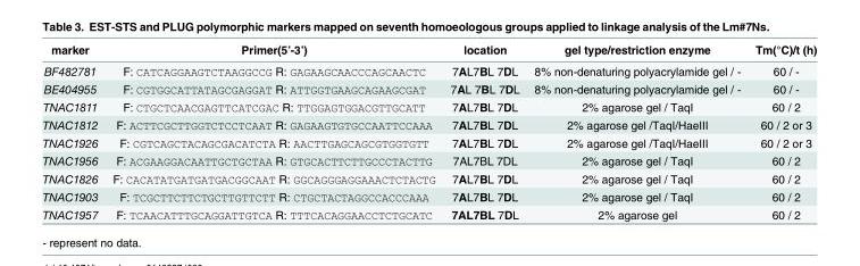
<table><thead><tr><td>marker</td><td>Primer(5’-3’)</td><td>location</td><td>gel type/restriction enzyme</td><td>Tm(°C)/t (h)</td></tr></thead><tbody><tr><td>BF482781</td><td>F: CATCAGGAAGTCTAAGGCCG R: GAGAAGCAACCCAGCAACTC</td><td>7AL7BL 7DL</td><td>8% non-denaturing polyacrylamide gel / -</td><td>60 / -</td></tr><tr><td>BE404955</td><td>F: CGTGGCATTATAGCGAGGAT R: ATTGGTGAAGCAGAAGCGAT</td><td>7AL 7BL 7DL</td><td>8% non-denaturing polyacrylamide gel / -</td><td>60 / -</td></tr><tr><td>TNAC1811</td><td>F: CTGCTCAACGAGTTCATCGAC R: TTGGAGTGGACGTTGCATT</td><td>7AL7BL 7DL</td><td>2% agarose gel / TaqI</td><td>60 / 2</td></tr><tr><td>TNAC1812</td><td>F: ACTTCGCTTGGTCTCCTCAAT R: GAGAAGTGTGCCAATTCCAAA</td><td>7AL7BL 7DL</td><td>2% agarose gel /TaqI/HaeIII</td><td>60 / 2 or 3</td></tr><tr><td>TNAC1926</td><td>F: CGTCAGCTACAGCGACATCTA R: AACTTGAGCAGCGTGGTGTT</td><td>7AL7BL 7DL</td><td>2% agarose gel /TaqI/HaeIII</td><td>60 / 2 or 3</td></tr><tr><td>TNAC1956</td><td>F: ACGAAGGACAATTGCTGCTAA R: GTGCACTTCTTGCCCTACTTG</td><td>7AL7BL 7DL</td><td>2% agarose gel / TaqI</td><td>60 / 2</td></tr><tr><td>TNAC1826</td><td>F: CACATATGATGATGACGGCAAT R: GGCAGGGAGGAAACTCTACTG</td><td>7AL7BL 7DL</td><td>2% agarose gel / TaqI</td><td>60 / 2</td></tr><tr><td>TNAC1903</td><td>F: TCGCTTCTTCTGCTTGTTCTT R: CTGCTACTAGGCCACCCAAA</td><td>7AL7BL 7DL</td><td>2% agarose gel / TaqI</td><td>60 / 2</td></tr><tr><td>TNAC1957</td><td>F: TCAACATTTGCAGGATTGTCA R: TTTCACAGGAACCTCTGCATC</td><td>7AL7BL 7DL</td><td>2% agarose gel</td><td>60 / 2</td></tr></tbody></table>